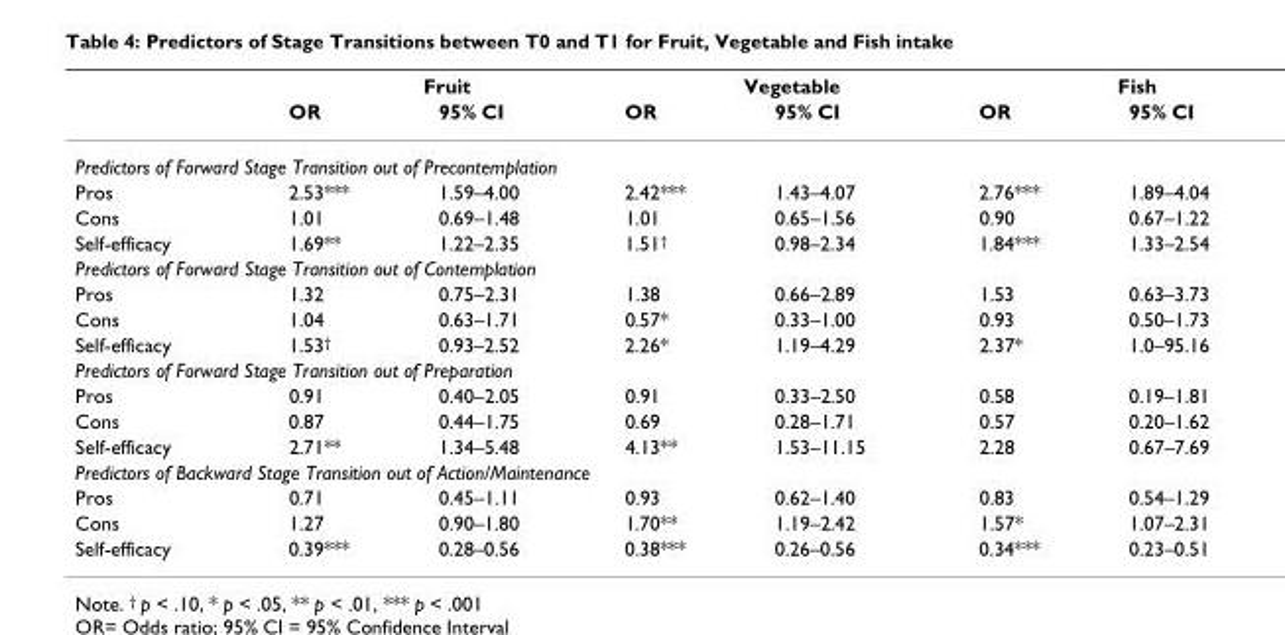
<table><thead><tr><td rowspan="2"></td><td colspan="2">Fruit</td><td colspan="2">Vegetable</td><td colspan="2">Fish</td></tr><tr><td>OR</td><td>95% CI</td><td>OR</td><td>95% CI</td><td>OR</td><td>95% CI</td></tr></thead><tbody><tr><td colspan="7">Predictors of Forward Stage Transition out of Precontemplation</td></tr><tr><td>Pros</td><td>2.53***</td><td>1.59–4.00</td><td>2.42***</td><td>1.43–4.07</td><td>2.76***</td><td>1.89–4.04</td></tr><tr><td>Cons</td><td>1.01</td><td>0.69–1.48</td><td>1.01</td><td>0.65–1.56</td><td>0.90</td><td>0.67–1.22</td></tr><tr><td>Self-efficacy</td><td>1.69**</td><td>1.22–2.35</td><td>1.51<sup>†</sup></td><td>0.98–2.34</td><td>1.84***</td><td>1.33–2.54</td></tr><tr><td colspan="7">Predictors of Forward Stage Transition out of Contemplation</td></tr><tr><td>Pros</td><td>1.32</td><td>0.75–2.31</td><td>1.38</td><td>0.66–2.89</td><td>1.53</td><td>0.63–3.73</td></tr><tr><td>Cons</td><td>1.04</td><td>0.63–1.71</td><td>0.57*</td><td>0.33–1.00</td><td>0.93</td><td>0.50–1.73</td></tr><tr><td>Self-efficacy</td><td>1.53<sup>†</sup></td><td>0.93–2.52</td><td>2.26*</td><td>1.19–4.29</td><td>2.37*</td><td>1.0–95.16</td></tr><tr><td colspan="7">Predictors of Forward Stage Transition out of Preparation</td></tr><tr><td>Pros</td><td>0.91</td><td>0.40–2.05</td><td>0.91</td><td>0.33–2.50</td><td>0.58</td><td>0.19–1.81</td></tr><tr><td>Cons</td><td>0.87</td><td>0.44–1.75</td><td>0.69</td><td>0.28–1.71</td><td>0.57</td><td>0.20–1.62</td></tr><tr><td>Self-efficacy</td><td>2.71**</td><td>1.34–5.48</td><td>4.13**</td><td>1.53–11.15</td><td>2.28</td><td>0.67–7.69</td></tr><tr><td colspan="7">Predictors of Backward Stage Transition out of Action/Maintenance</td></tr><tr><td>Pros</td><td>0.71</td><td>0.45–1.11</td><td>0.93</td><td>0.62–1.40</td><td>0.83</td><td>0.54–1.29</td></tr><tr><td>Cons</td><td>1.27</td><td>0.90–1.80</td><td>1.70**</td><td>1.19–2.42</td><td>1.57*</td><td>1.07–2.31</td></tr><tr><td>Self-efficacy</td><td>0.39***</td><td>0.28–0.56</td><td>0.38***</td><td>0.26–0.56</td><td>0.34***</td><td>0.23–0.51</td></tr></tbody></table>